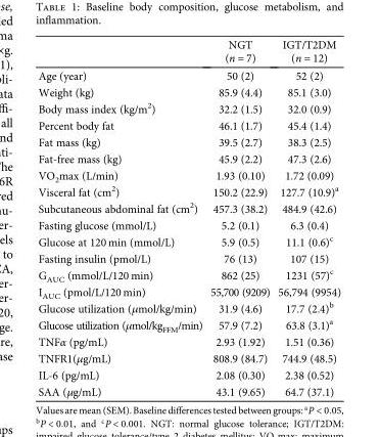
<table><thead><tr><td></td><td>NGT (n = 7)</td><td>IGT/T2DM (n = 12)</td></tr></thead><tbody><tr><td>Age (year)</td><td>50 (2)</td><td>52 (2)</td></tr><tr><td>Weight (kg)</td><td>85.9 (4.4)</td><td>85.1 (3.0)</td></tr><tr><td>Body mass index (kg/m<sup>2</sup>)</td><td>32.2 (1.5)</td><td>32.0 (0.9)</td></tr><tr><td>Percent body fat</td><td>46.1 (1.7)</td><td>45.4 (1.4)</td></tr><tr><td>Fat mass (kg)</td><td>39.5 (2.7)</td><td>38.3 (2.5)</td></tr><tr><td>Fat-free mass (kg)</td><td>45.9 (2.2)</td><td>47.3 (2.6)</td></tr><tr><td>VO<sub>2</sub>max (L/min)</td><td>1.93 (0.10)</td><td>1.72 (0.09)</td></tr><tr><td>Visceral fat (cm<sup>2</sup>)</td><td>150.2 (22.9)</td><td>127.7 (10.9)<sup>a</sup></td></tr><tr><td>Subcutaneous abdominal fat (cm<sup>2</sup>)</td><td>457.3 (38.2)</td><td>484.9 (42.6)</td></tr><tr><td>Fasting glucose (mmol/L)</td><td>5.2 (0.1)</td><td>6.3 (0.4)</td></tr><tr><td>Glucose at 120 min (mmol/L)</td><td>5.9 (0.5)</td><td>11.1 (0.6)<sup>c</sup></td></tr><tr><td>Fasting insulin (pmol/L)</td><td>76 (13)</td><td>107 (15)</td></tr><tr><td>G<sub>AUC</sub> (mmol/L/120 min)</td><td>862 (25)</td><td>1231 (57)<sup>c</sup></td></tr><tr><td>I<sub>AUC</sub> (pmol/L/120 min)</td><td>55,700 (9209)</td><td>56,794 (9954)</td></tr><tr><td>Glucose utilization (μmol/kg/min)</td><td>31.9 (4.6)</td><td>17.7 (2.4)<sup>b</sup></td></tr><tr><td>Glucose utilization (μmol/kg<sub>FFM</sub>/min)</td><td>57.9 (7.2)</td><td>63.8 (3.1)<sup>a</sup></td></tr><tr><td>TNFα (pg/mL)</td><td>2.93 (1.92)</td><td>1.51 (0.36)</td></tr><tr><td>TNFR1(μg/mL)</td><td>808.9 (84.7)</td><td>744.9 (48.5)</td></tr><tr><td>IL-6 (pg/mL)</td><td>2.08 (0.30)</td><td>2.38 (0.52)</td></tr><tr><td>SAA (μg/mL)</td><td>43.1 (9.65)</td><td>64.7 (37.1)</td></tr></tbody></table>